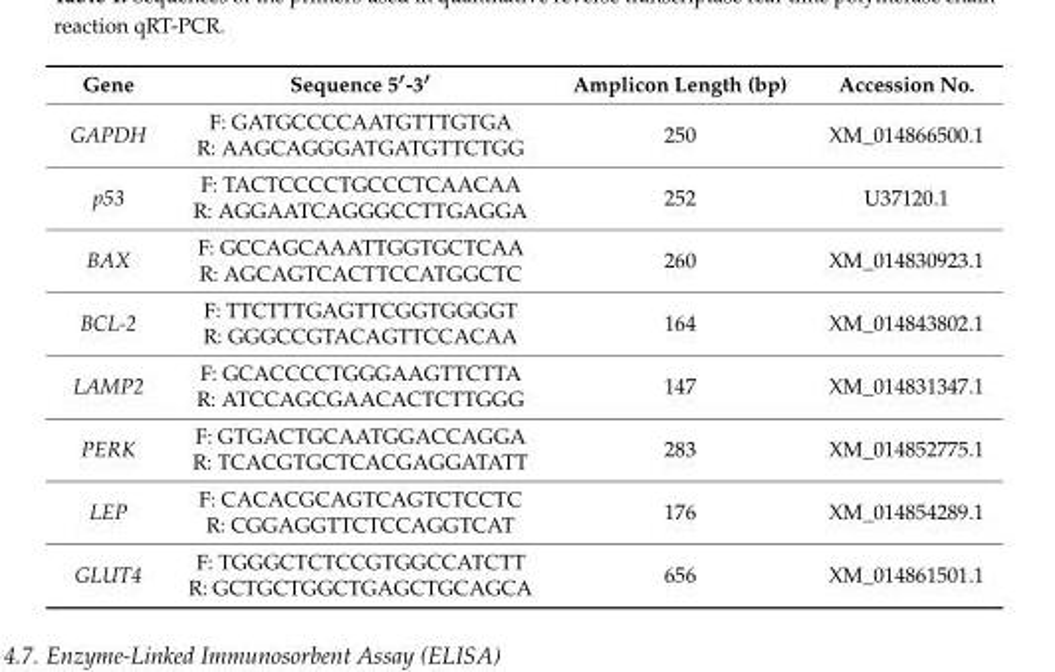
<table><thead><tr><td>Gene</td><td>Sequence 5′-3′</td><td>Amplicon Length (bp)</td><td>Accession No.</td></tr></thead><tbody><tr><td>GAPDH</td><td>F: GATGCCCCAATGTTTGTGA R: AAGCAGGGATGATGTTCTGG</td><td>250</td><td>XM_014866500.1</td></tr><tr><td>p53</td><td>F: TACTCCCCTGCCCTCAACAA R: AGGAATCAGGGCCTTGAGGA</td><td>252</td><td>U37120.1</td></tr><tr><td>BAX</td><td>F: GCCAGCAAATTGGTGCTCAA R: AGCAGTCACTTCCATGGCTC</td><td>260</td><td>XM_014830923.1</td></tr><tr><td>BCL-2</td><td>F: TTCTTTGAGTTCGGTGGGGT R: GGGCCGTACAGTTCCACAA</td><td>164</td><td>XM_014843802.1</td></tr><tr><td>LAMP2</td><td>F: GCACCCCTGGGAAGTTCTTA R: ATCCAGCGAACACTCTTGGG</td><td>147</td><td>XM_014831347.1</td></tr><tr><td>PERK</td><td>F: GTGACTGCAATGGACCAGGA R: TCACGTGCTCACGAGGATATT</td><td>283</td><td>XM_014852775.1</td></tr><tr><td>LEP</td><td>F: CACACGCAGTCAGTCTCCTC R: CGGAGGTTCTCCAGGTCAT</td><td>176</td><td>XM_014854289.1</td></tr><tr><td>GLUT4</td><td>F: TGGGCTCTCCGTGGCCATCTT R: GCTGCTGGCTGAGCTGCAGCA</td><td>656</td><td>XM_014861501.1</td></tr></tbody></table>